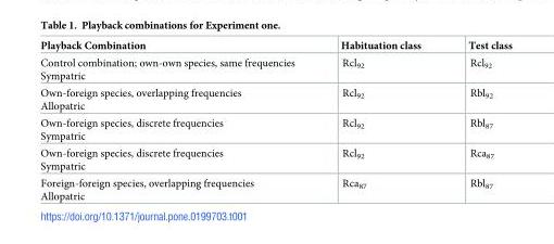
<table><thead><tr><td>Playback Combination</td><td>Habituation class</td><td>Test class</td></tr></thead><tbody><tr><td>Control combination; own-own species, same frequencies Sympatric</td><td>Rcl<sub>92</sub></td><td>Rcl<sub>92</sub></td></tr><tr><td>Own-foreign species, overlapping frequencies Allopatric</td><td>Rcl<sub>92</sub></td><td>Rbl<sub>92</sub></td></tr><tr><td>Own-foreign species, discrete frequencies Sympatric</td><td>Rcl<sub>92</sub></td><td>Rbl<sub>87</sub></td></tr><tr><td>Own-foreign species, discrete frequencies Sympatric</td><td>Rcl<sub>92</sub></td><td>Rca<sub>87</sub></td></tr><tr><td>Foreign-foreign species, overlapping frequencies Allopatric</td><td>Rca<sub>87</sub></td><td>Rbl<sub>87</sub></td></tr></tbody></table>